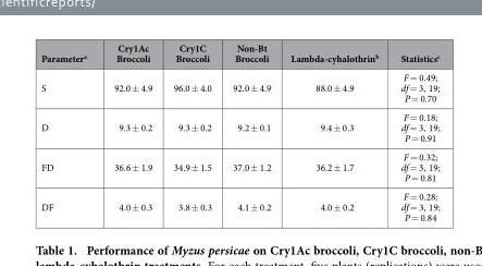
<table><thead><tr><td>Parameter<sup>a</sup></td><td>Cry1Ac Broccoli</td><td>Cry1C Broccoli</td><td>Non-Bt Broccoli</td><td>Lambda-cyhalothrin<sup>b</sup></td><td>Statistics<sup>c</sup></td></tr></thead><tbody><tr><td>S</td><td>92.0 ± 4.9</td><td>96.0 ± 4.0</td><td>92.0 ± 4.9</td><td>88.0 ± 4.9</td><td>F = 0.49; df = 3, 19; P = 0.70</td></tr><tr><td>D</td><td>9.3 ± 0.2</td><td>9.3 ± 0.2</td><td>9.2 ± 0.1</td><td>9.4 ± 0.3</td><td>F = 0.18; df = 3, 19; P = 0.91</td></tr><tr><td>FD</td><td>36.6 ± 1.9</td><td>34.9 ± 1.5</td><td>37.0 ± 1.2</td><td>36.2 ± 1.7</td><td>F = 0.32; df = 3, 19; P = 0.81</td></tr><tr><td>DF</td><td>4.0 ± 0.3</td><td>3.8 ± 0.3</td><td>4.1 ± 0.2</td><td>4.0 ± 0.2</td><td>F = 0.28; df = 3, 19; P = 0.84</td></tr></tbody></table>